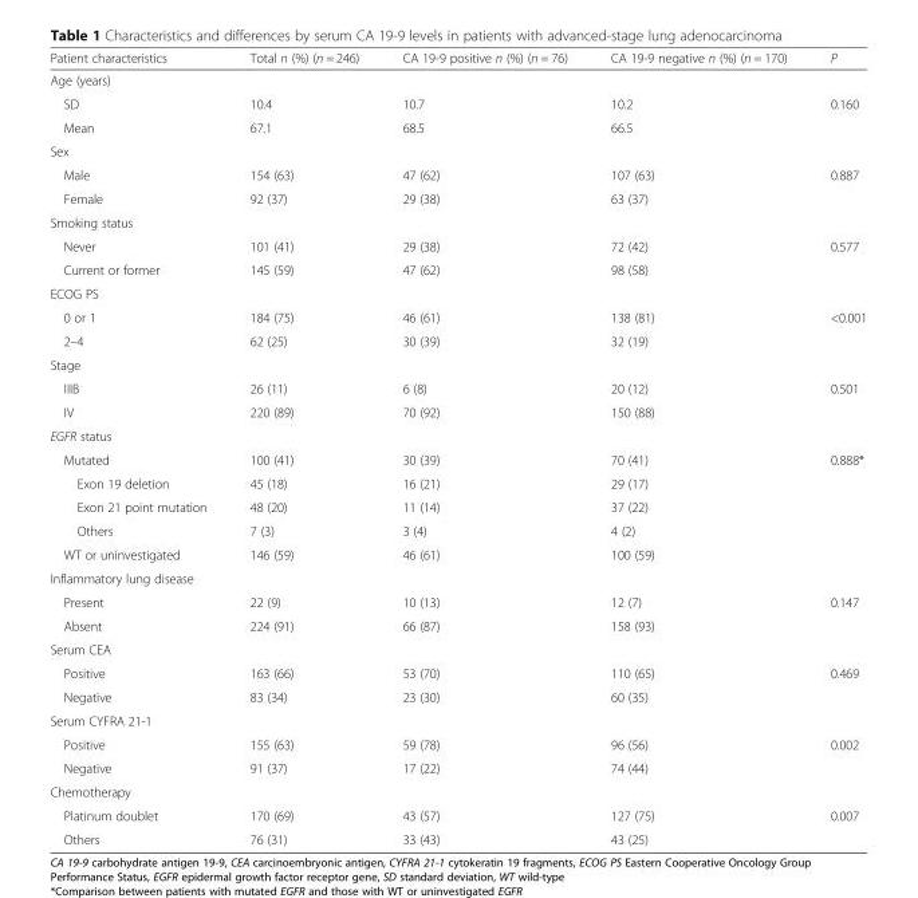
<table><thead><tr><td>Patient characteristics</td><td>Total n (%) (n = 246)</td><td>CA 19-9 positive n (%) (n = 76)</td><td>CA 19-9 negative n (%) (n = 170)</td><td>P</td></tr></thead><tbody><tr><td colspan="5">Age (years)</td></tr><tr><td>SD</td><td>10.4</td><td>10.7</td><td>10.2</td><td rowspan="2">0.160</td></tr><tr><td>Mean</td><td>67.1</td><td>68.5</td><td>66.5</td></tr><tr><td colspan="5">Sex</td></tr><tr><td>Male</td><td>154 (63)</td><td>47 (62)</td><td>107 (63)</td><td rowspan="2">0.887</td></tr><tr><td>Female</td><td>92 (37)</td><td>29 (38)</td><td>63 (37)</td></tr><tr><td colspan="5">Smoking status</td></tr><tr><td>Never</td><td>101 (41)</td><td>29 (38)</td><td>72 (42)</td><td rowspan="2">0.577</td></tr><tr><td>Current or former</td><td>145 (59)</td><td>47 (62)</td><td>98 (58)</td></tr><tr><td colspan="5">ECOG PS</td></tr><tr><td>0 or 1</td><td>184 (75)</td><td>46 (61)</td><td>138 (81)</td><td rowspan="2">&lt;0.001</td></tr><tr><td>2–4</td><td>62 (25)</td><td>30 (39)</td><td>32 (19)</td></tr><tr><td colspan="5">Stage</td></tr><tr><td>IIIB</td><td>26 (11)</td><td>6 (8)</td><td>20 (12)</td><td rowspan="2">0.501</td></tr><tr><td>IV</td><td>220 (89)</td><td>70 (92)</td><td>150 (88)</td></tr><tr><td colspan="5">EGFR status</td></tr><tr><td>Mutated</td><td>100 (41)</td><td>30 (39)</td><td>70 (41)</td><td rowspan="5">0.888*</td></tr><tr><td>Exon 19 deletion</td><td>45 (18)</td><td>16 (21)</td><td>29 (17)</td></tr><tr><td>Exon 21 point mutation</td><td>48 (20)</td><td>11 (14)</td><td>37 (22)</td></tr><tr><td>Others</td><td>7 (3)</td><td>3 (4)</td><td>4 (2)</td></tr><tr><td>WT or uninvestigated</td><td>146 (59)</td><td>46 (61)</td><td>100 (59)</td></tr><tr><td colspan="5">Inflammatory lung disease</td></tr><tr><td>Present</td><td>22 (9)</td><td>10 (13)</td><td>12 (7)</td><td rowspan="2">0.147</td></tr><tr><td>Absent</td><td>224 (91)</td><td>66 (87)</td><td>158 (93)</td></tr><tr><td colspan="5">Serum CEA</td></tr><tr><td>Positive</td><td>163 (66)</td><td>53 (70)</td><td>110 (65)</td><td rowspan="2">0.469</td></tr><tr><td>Negative</td><td>83 (34)</td><td>23 (30)</td><td>60 (35)</td></tr><tr><td colspan="5">Serum CYFRA 21-1</td></tr><tr><td>Positive</td><td>155 (63)</td><td>59 (78)</td><td>96 (56)</td><td rowspan="2">0.002</td></tr><tr><td>Negative</td><td>91 (37)</td><td>17 (22)</td><td>74 (44)</td></tr><tr><td colspan="5">Chemotherapy</td></tr><tr><td>Platinum doublet</td><td>170 (69)</td><td>43 (57)</td><td>127 (75)</td><td rowspan="2">0.007</td></tr><tr><td>Others</td><td>76 (31)</td><td>33 (43)</td><td>43 (25)</td></tr></tbody></table>